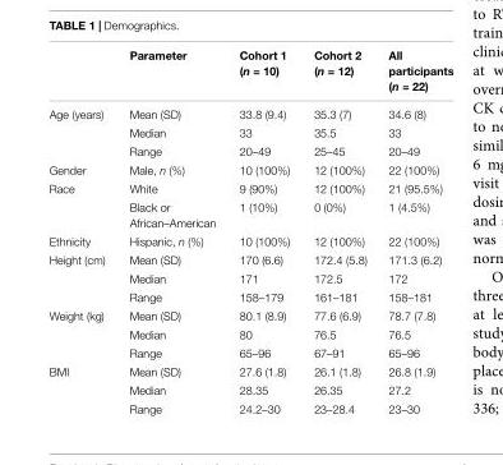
<table><thead><tr><td></td><td>Parameter</td><td>Cohort 1 (n = 10)</td><td>Cohort 2 (n = 12)</td><td>All participants (n = 22)</td></tr></thead><tbody><tr><td rowspan="3">Age (years)</td><td>Mean (SD)</td><td>33.8 (9.4)</td><td>35.3 (7)</td><td>34.6 (8)</td></tr><tr><td>Median</td><td>33</td><td>35.5</td><td>33</td></tr><tr><td>Range</td><td>20–49</td><td>25–45</td><td>20–49</td></tr><tr><td>Gender</td><td>Male, n (%)</td><td>10 (100%)</td><td>12 (100%)</td><td>22 (100%)</td></tr><tr><td rowspan="2">Race</td><td>White</td><td>9 (90%)</td><td>12 (100%)</td><td>21 (95.5%)</td></tr><tr><td>Black or African–American</td><td>1 (10%)</td><td>0 (0%)</td><td>1 (4.5%)</td></tr><tr><td>Ethnicity</td><td>Hispanic, n (%)</td><td>10 (100%)</td><td>12 (100%)</td><td>22 (100%)</td></tr><tr><td rowspan="3">Height (cm)</td><td>Mean (SD)</td><td>170 (6.6)</td><td>172.4 (5.8)</td><td>171.3 (6.2)</td></tr><tr><td>Median</td><td>171</td><td>172.5</td><td>172</td></tr><tr><td>Range</td><td>158–179</td><td>161–181</td><td>158–181</td></tr><tr><td rowspan="3">Weight (kg)</td><td>Mean (SD)</td><td>80.1 (8.9)</td><td>77.6 (6.9)</td><td>78.7 (7.8)</td></tr><tr><td>Median</td><td>80</td><td>76.5</td><td>76.5</td></tr><tr><td>Range</td><td>65–96</td><td>67–91</td><td>65–96</td></tr><tr><td rowspan="3">BMI</td><td>Mean (SD)</td><td>27.6 (1.8)</td><td>26.1 (1.8)</td><td>26.8 (1.9)</td></tr><tr><td>Median</td><td>28.35</td><td>26.35</td><td>27.2</td></tr><tr><td>Range</td><td>24.2–30</td><td>23–28.4</td><td>23–30</td></tr></tbody></table>